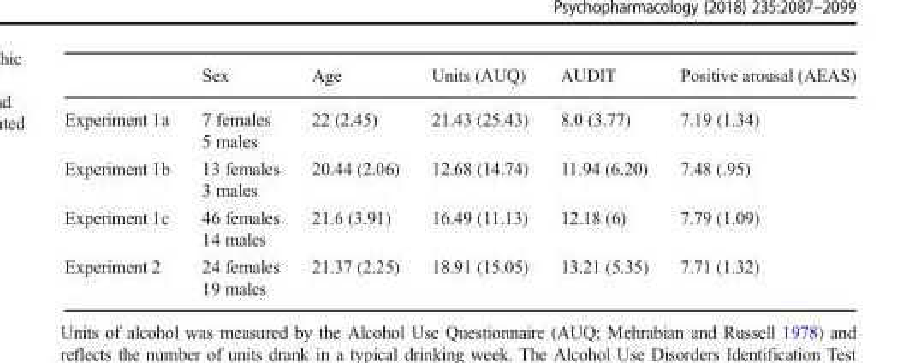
<table><thead><tr><td></td><td>Sex</td><td>Age</td><td>Units (AUQ)</td><td>AUDIT</td><td>Positive arousal (AEAS)</td></tr></thead><tbody><tr><td rowspan="2">Experiment 1a</td><td>7 females</td><td rowspan="2">22 (2.45)</td><td rowspan="2">21.43 (25.43)</td><td rowspan="2">8.0 (3.77)</td><td rowspan="2">7.19 (1.34)</td></tr><tr><td>5 males</td></tr><tr><td rowspan="2">Experiment 1b</td><td>13 females</td><td rowspan="2">20.44 (2.06)</td><td rowspan="2">12.68 (14.74)</td><td rowspan="2">11.94 (6.20)</td><td rowspan="2">7.48 (.95)</td></tr><tr><td>3 males</td></tr><tr><td rowspan="2">Experiment 1c</td><td>46 females</td><td rowspan="2">21.6 (3.91)</td><td rowspan="2">16.49 (11.13)</td><td rowspan="2">12.18 (6)</td><td rowspan="2">7.79 (1.09)</td></tr><tr><td>14 males</td></tr><tr><td rowspan="2">Experiment 2</td><td>24 females</td><td rowspan="2">21.37 (2.25)</td><td rowspan="2">18.91 (15.05)</td><td rowspan="2">13.21 (5.35)</td><td rowspan="2">7.71 (1.32)</td></tr><tr><td>19 males</td></tr></tbody></table>